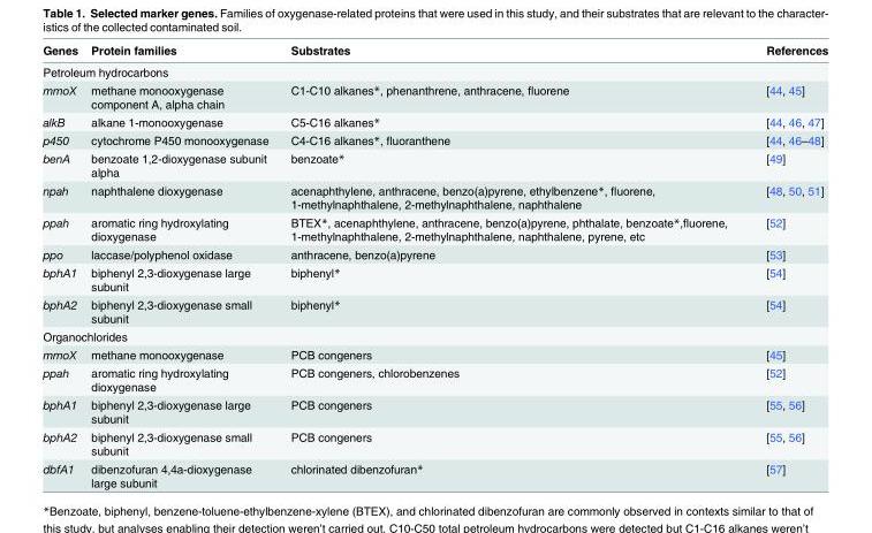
<table><thead><tr><td>Genes</td><td>Protein families</td><td>Substrates</td><td>References</td></tr></thead><tbody><tr><td colspan="4">Petroleum hydrocarbons</td></tr><tr><td>mmoX</td><td>methane monooxygenase component A, alpha chain</td><td>C1-C10 alkanes*, phenanthrene, anthracene, fluorene</td><td>[44, 45]</td></tr><tr><td>alkB</td><td>alkane 1-monooxygenase</td><td>C5-C16 alkanes*</td><td>[44, 46, 47]</td></tr><tr><td>p450</td><td>cytochrome P450 monooxygenase</td><td>C4-C16 alkanes*, fluoranthene</td><td>[44, 46–48]</td></tr><tr><td>benA</td><td>benzoate 1,2-dioxygenase subunit alpha</td><td>benzoate*</td><td>[49]</td></tr><tr><td>npah</td><td>naphthalene dioxygenase</td><td>acenaphthylene, anthracene, benzo(a)pyrene, ethylbenzene*, fluorene, 1-methylnaphthalene, 2-methylnaphthalene, naphthalene</td><td>[48, 50, 51]</td></tr><tr><td>ppah</td><td>aromatic ring hydroxylating dioxygenase</td><td>BTEX*, acenaphthylene, anthracene, benzo(a)pyrene, phthalate, benzoate*,fluorene, 1-methylnaphthalene, 2-methylnaphthalene, naphthalene, pyrene, etc</td><td>[52]</td></tr><tr><td>ppo</td><td>laccase/polyphenol oxidase</td><td>anthracene, benzo(a)pyrene</td><td>[53]</td></tr><tr><td>bphA1</td><td>biphenyl 2,3-dioxygenase large subunit</td><td>biphenyl*</td><td>[54]</td></tr><tr><td>bphA2</td><td>biphenyl 2,3-dioxygenase small subunit</td><td>biphenyl*</td><td>[54]</td></tr><tr><td colspan="4">Organochlorides</td></tr><tr><td>mmoX</td><td>methane monooxygenase</td><td>PCB congeners</td><td>[45]</td></tr><tr><td>ppah</td><td>aromatic ring hydroxylating dioxygenase</td><td>PCB congeners, chlorobenzenes</td><td>[52]</td></tr><tr><td>bphA1</td><td>biphenyl 2,3-dioxygenase large subunit</td><td>PCB congeners</td><td>[55, 56]</td></tr><tr><td>bphA2</td><td>biphenyl 2,3-dioxygenase small subunit</td><td>PCB congeners</td><td>[55, 56]</td></tr><tr><td>dbfA1</td><td>dibenzofuran 4,4a-dioxygenase large subunit</td><td>chlorinated dibenzofuran*</td><td>[57]</td></tr></tbody></table>